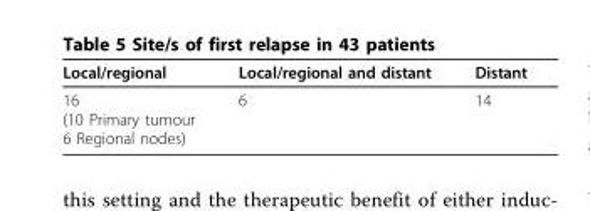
<table><thead><tr><td>Local/regional</td><td>Local/regional and distant</td><td>Distant</td></tr></thead><tbody><tr><td>16 (10 Primary tumour 6 Regional nodes)</td><td>6</td><td>14</td></tr></tbody></table>